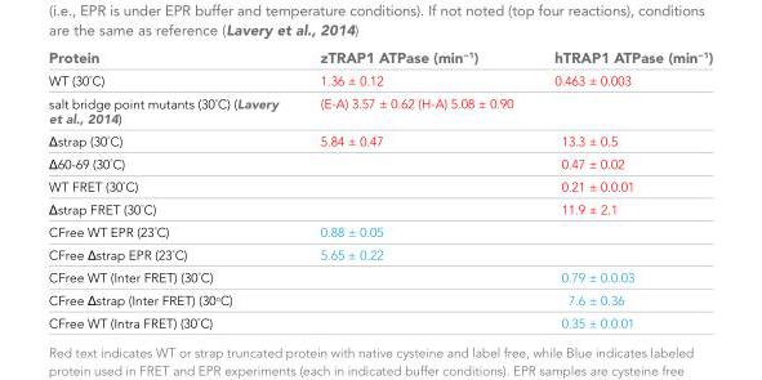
<table><thead><tr><td>Protein</td><td>zTRAP1 ATPase (min<sup>−1</sup>)</td><td>hTRAP1 ATPase (min<sup>−1</sup>)</td></tr></thead><tbody><tr><td>WT (30<sup>°</sup>C)</td><td>1.36 ± 0.12</td><td>0.463 ± 0.003</td></tr><tr><td>salt bridge point mutants (30<sup>°</sup>C) (Lavery et al., 2014)</td><td>(E-A) 3.57 ± 0.62 (H-A) 5.08 ± 0.90</td><td></td></tr><tr><td>Δstrap (30<sup>°</sup>C)</td><td>5.84 ± 0.47</td><td>13.3 ± 0.5</td></tr><tr><td>Δ60-69 (30<sup>°</sup>C)</td><td></td><td>0.47 ± 0.02</td></tr><tr><td>WT FRET (30<sup>°</sup>C)</td><td></td><td>0.21 ± 0.0.01</td></tr><tr><td>Δstrap FRET (30<sup>°</sup>C)</td><td></td><td>11.9 ± 2.1</td></tr><tr><td>CFree WT EPR (23<sup>°</sup>C)</td><td>0.88 ± 0.05</td><td></td></tr><tr><td>CFree Δstrap EPR (23<sup>°</sup>C)</td><td>5.65 ± 0.22</td><td></td></tr><tr><td>CFree WT (Inter FRET) (30<sup>°</sup>C)</td><td></td><td>0.79 ± 0.0.03</td></tr><tr><td>CFree Δstrap (Inter FRET) (30<sup>o</sup>C)</td><td></td><td>7.6 ± 0.36</td></tr><tr><td>CFree WT (Intra FRET) (30<sup>°</sup>C)</td><td></td><td>0.35 ± 0.0.01</td></tr></tbody></table>